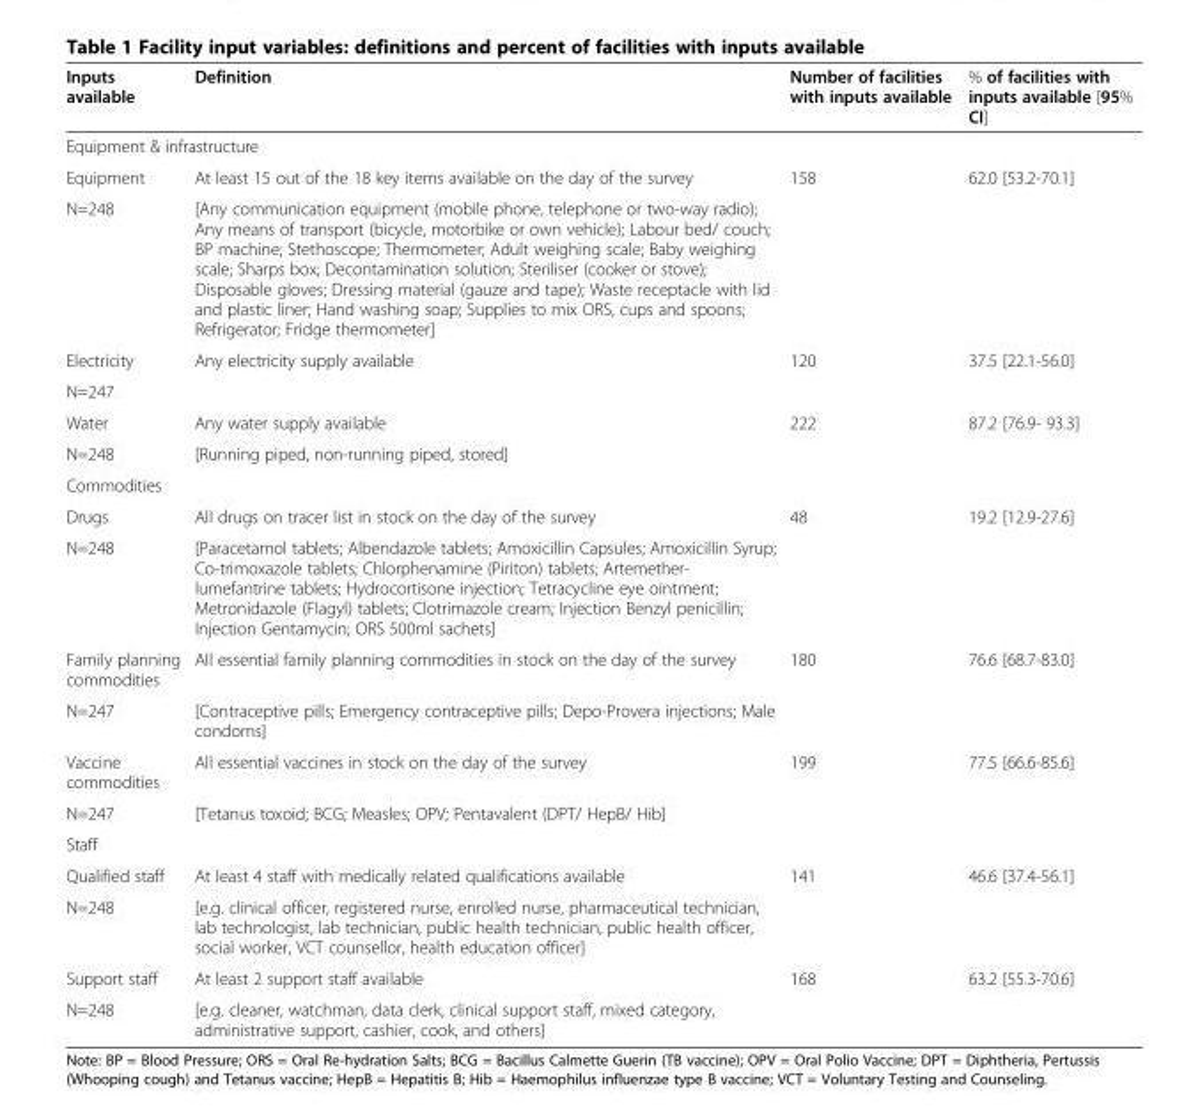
<table><thead><tr><td>Inputs available</td><td>Definition</td><td>Number of facilities with inputs available</td><td>% of facilities with inputs available [95% CI]</td></tr></thead><tbody><tr><td colspan="4">Equipment &amp; infrastructure</td></tr><tr><td>Equipment</td><td>At least 15 out of the 18 key items available on the day of the survey</td><td rowspan="2">158</td><td rowspan="2">62.0 [53.2-70.1]</td></tr><tr><td>N=248</td><td>[Any communication equipment (mobile phone, telephone or two-way radio); Any means of transport (bicycle, motorbike or own vehicle); Labour bed/ couch; BP machine; Stethoscope; Thermometer; Adult weighing scale; Baby weighing scale; Sharps box; Decontamination solution; Steriliser (cooker or stove); Disposable gloves; Dressing material (gauze and tape); Waste receptacle with lid and plastic liner; Hand washing soap; Supplies to mix ORS, cups and spoons; Refrigerator; Fridge thermometer]</td></tr><tr><td>Electricity</td><td rowspan="2">Any electricity supply available</td><td rowspan="2">120</td><td rowspan="2">37.5 [22.1-56.0]</td></tr><tr><td>N=247</td></tr><tr><td>Water</td><td>Any water supply available</td><td rowspan="2">222</td><td rowspan="2">87.2 [76.9- 93.3]</td></tr><tr><td>N=248</td><td>[Running piped, non-running piped, stored]</td></tr><tr><td colspan="4">Commodities</td></tr><tr><td>Drugs</td><td>All drugs on tracer list in stock on the day of the survey</td><td rowspan="2">48</td><td rowspan="2">19.2 [12.9-27.6]</td></tr><tr><td>N=248</td><td>[Paracetamol tablets; Albendazole tablets; Amoxicillin Capsules; Amoxicillin Syrup; Co-trimoxazole tablets; Chlorphenamine (Piriton) tablets; Artemether- lumefantrine tablets; Hydrocortisone injection; Tetracycline eye ointment; Metronidazole (Flagyl) tablets; Clotrimazole cream; Injection Benzyl penicillin; Injection Gentamycin; ORS 500ml sachets]</td></tr><tr><td>Family planning commodities</td><td>All essential family planning commodities in stock on the day of the survey</td><td rowspan="2">180</td><td rowspan="2">76.6 [68.7-83.0]</td></tr><tr><td>N=247</td><td>[Contraceptive pills; Emergency contraceptive pills; Depo-Provera injections; Male condoms]</td></tr><tr><td>Vaccine commodities</td><td>All essential vaccines in stock on the day of the survey</td><td rowspan="2">199</td><td rowspan="2">77.5 [66.6-85.6]</td></tr><tr><td>N=247</td><td>[Tetanus toxoid; BCG; Measles; OPV; Pentavalent (DPT/ HepB/ Hib]</td></tr><tr><td colspan="4">Staff</td></tr><tr><td>Qualified staff</td><td>At least 4 staff with medically related qualifications available</td><td rowspan="2">141</td><td rowspan="2">46.6 [37.4-56.1]</td></tr><tr><td>N=248</td><td>[e.g. clinical officer, registered nurse, enrolled nurse, pharmaceutical technician, lab technologist, lab technician, public health technician, public health officer, social worker, VCT counsellor, health education officer]</td></tr><tr><td>Support staff</td><td>At least 2 support staff available</td><td rowspan="2">168</td><td rowspan="2">63.2 [55.3-70.6]</td></tr><tr><td>N=248</td><td>[e.g. cleaner, watchman, data clerk, clinical support staff, mixed category, administrative support, cashier, cook, and others]</td></tr></tbody></table>